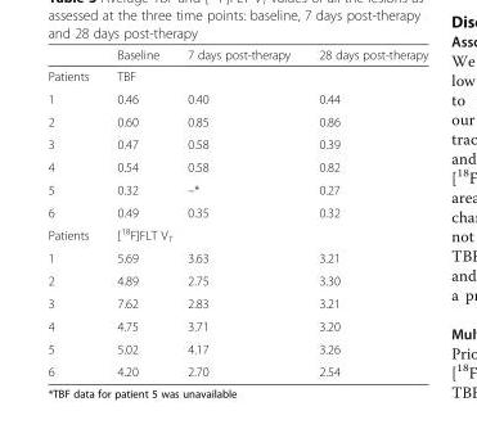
<table><thead><tr><td></td><td>Baseline</td><td>7 days post-therapy</td><td>28 days post-therapy</td></tr></thead><tbody><tr><td>Patients</td><td colspan="3">TBF</td></tr><tr><td>1</td><td>0.46</td><td>0.40</td><td>0.44</td></tr><tr><td>2</td><td>0.60</td><td>0.85</td><td>0.86</td></tr><tr><td>3</td><td>0.47</td><td>0.58</td><td>0.39</td></tr><tr><td>4</td><td>0.54</td><td>0.58</td><td>0.82</td></tr><tr><td>5</td><td>0.32</td><td>–*</td><td>0.27</td></tr><tr><td>6</td><td>0.49</td><td>0.35</td><td>0.32</td></tr><tr><td>Patients</td><td colspan="3">[<sup>18</sup>F]FLT V<sub>T</sub></td></tr><tr><td>1</td><td>5.69</td><td>3.63</td><td>3.21</td></tr><tr><td>2</td><td>4.89</td><td>2.75</td><td>3.30</td></tr><tr><td>3</td><td>7.62</td><td>2.83</td><td>3.21</td></tr><tr><td>4</td><td>4.75</td><td>3.71</td><td>3.20</td></tr><tr><td>5</td><td>5.02</td><td>4.17</td><td>3.26</td></tr><tr><td>6</td><td>4.20</td><td>2.70</td><td>2.54</td></tr></tbody></table>